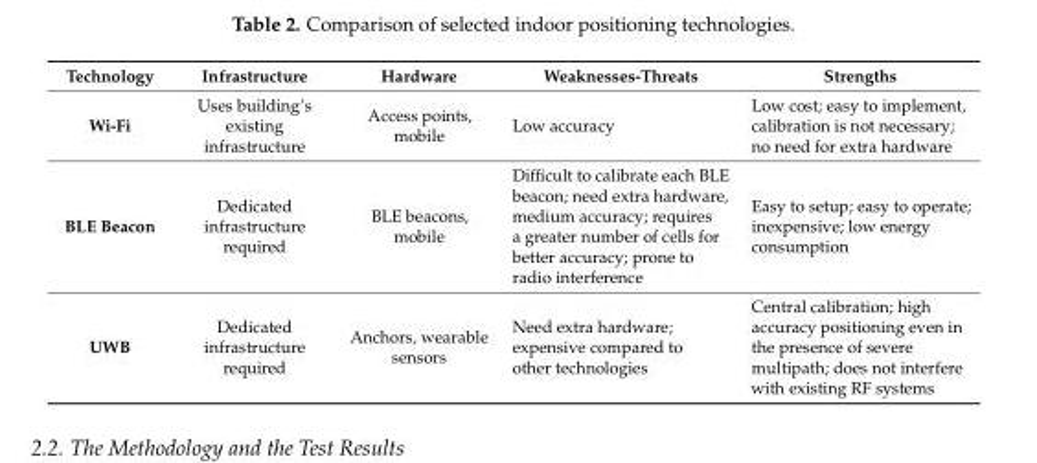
<table><thead><tr><td>Technology</td><td>Infrastructure</td><td>Hardware</td><td>Weaknesses-Threats</td><td>Strengths</td></tr></thead><tbody><tr><td>Wi-Fi</td><td>Uses building’s existing infrastructure</td><td>Access points, mobile</td><td>Low accuracy</td><td>Low cost; easy to implement, calibration is not necessary; no need for extra hardware</td></tr><tr><td>BLE Beacon</td><td>Dedicated infrastructure required</td><td>BLE beacons, mobile</td><td>Difficult to calibrate each BLE beacon; need extra hardware, medium accuracy; requires a greater number of cells for better accuracy; prone to radio interference</td><td>Easy to setup; easy to operate; inexpensive; low energy consumption</td></tr><tr><td>UWB</td><td>Dedicated infrastructure required</td><td>Anchors, wearable sensors</td><td>Need extra hardware; expensive compared to other technologies</td><td>Central calibration; high accuracy positioning even in the presence of severe multipath; does not interfere with existing RF systems</td></tr></tbody></table>